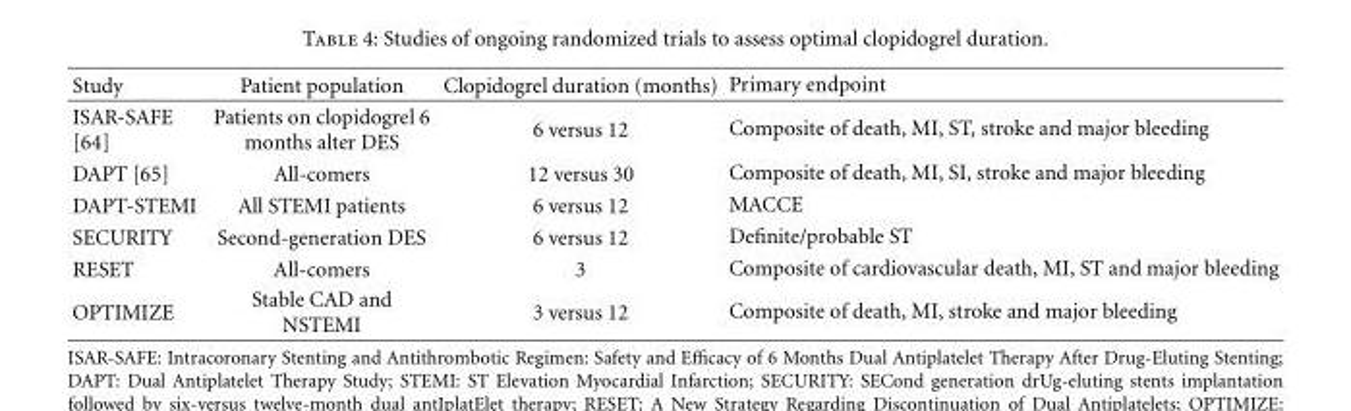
<table><thead><tr><td>Study</td><td>Patient population</td><td>Clopidogrel duration (months)</td><td>Primary endpoint</td></tr></thead><tbody><tr><td>ISAR-SAFE [64]</td><td>Patients on clopidogrel 6 months alter DES</td><td>6 versus 12</td><td>Composite of death, MI, ST, stroke and major bleeding</td></tr><tr><td>DAPT [65]</td><td>All-comers</td><td>12 versus 30</td><td>Composite of death, MI, SI, stroke and major bleeding</td></tr><tr><td>DAPT-STEMI</td><td>All STEMI patients</td><td>6 versus 12</td><td>MACCE</td></tr><tr><td>SECURITY</td><td>Second-generation DES</td><td>6 versus 12</td><td>Definite/probable ST</td></tr><tr><td>RESET</td><td>All-comers</td><td>3</td><td>Composite of cardiovascular death, MI, ST and major bleeding</td></tr><tr><td>OPTIMIZE</td><td>Stable CAD and NSTEMI</td><td>3 versus 12</td><td>Composite of death, MI, stroke and major bleeding</td></tr></tbody></table>